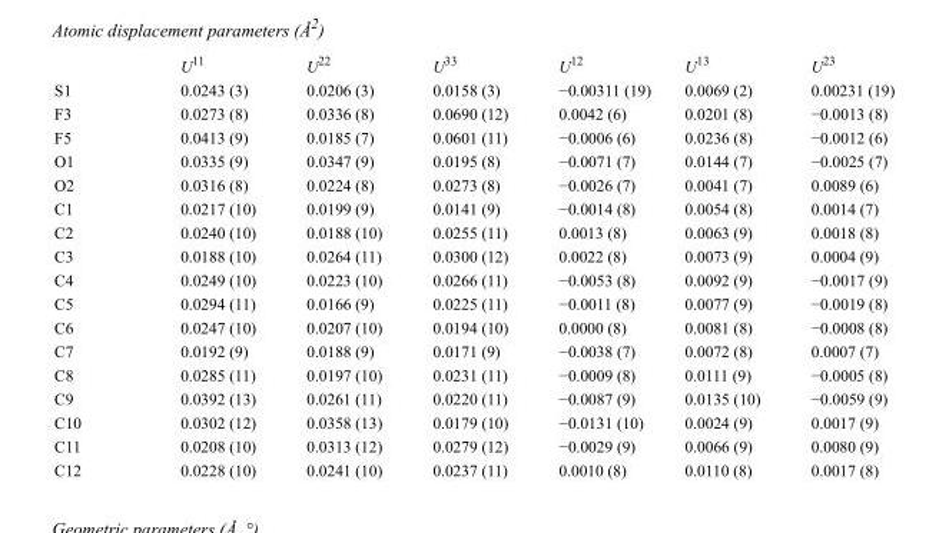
<table><thead><tr><td></td><td>U<sup>11</sup></td><td>U<sup>22</sup></td><td>U<sup>33</sup></td><td>U<sup>12</sup></td><td>U<sup>13</sup></td><td>U<sup>23</sup></td></tr></thead><tbody><tr><td>S1</td><td>0.0243 (3)</td><td>0.0206 (3)</td><td>0.0158 (3)</td><td>−0.00311 (19)</td><td>0.0069 (2)</td><td>0.00231 (19)</td></tr><tr><td>F3</td><td>0.0273 (8)</td><td>0.0336 (8)</td><td>0.0690 (12)</td><td>0.0042 (6)</td><td>0.0201 (8)</td><td>−0.0013 (8)</td></tr><tr><td>F5</td><td>0.0413 (9)</td><td>0.0185 (7)</td><td>0.0601 (11)</td><td>−0.0006 (6)</td><td>0.0236 (8)</td><td>−0.0012 (6)</td></tr><tr><td>O1</td><td>0.0335 (9)</td><td>0.0347 (9)</td><td>0.0195 (8)</td><td>−0.0071 (7)</td><td>0.0144 (7)</td><td>−0.0025 (7)</td></tr><tr><td>O2</td><td>0.0316 (8)</td><td>0.0224 (8)</td><td>0.0273 (8)</td><td>−0.0026 (7)</td><td>0.0041 (7)</td><td>0.0089 (6)</td></tr><tr><td>C1</td><td>0.0217 (10)</td><td>0.0199 (9)</td><td>0.0141 (9)</td><td>−0.0014 (8)</td><td>0.0054 (8)</td><td>0.0014 (7)</td></tr><tr><td>C2</td><td>0.0240 (10)</td><td>0.0188 (10)</td><td>0.0255 (11)</td><td>0.0013 (8)</td><td>0.0063 (9)</td><td>0.0018 (8)</td></tr><tr><td>C3</td><td>0.0188 (10)</td><td>0.0264 (11)</td><td>0.0300 (12)</td><td>0.0022 (8)</td><td>0.0073 (9)</td><td>0.0004 (9)</td></tr><tr><td>C4</td><td>0.0249 (10)</td><td>0.0223 (10)</td><td>0.0266 (11)</td><td>−0.0053 (8)</td><td>0.0092 (9)</td><td>−0.0017 (9)</td></tr><tr><td>C5</td><td>0.0294 (11)</td><td>0.0166 (9)</td><td>0.0225 (11)</td><td>−0.0011 (8)</td><td>0.0077 (9)</td><td>−0.0019 (8)</td></tr><tr><td>C6</td><td>0.0247 (10)</td><td>0.0207 (10)</td><td>0.0194 (10)</td><td>0.0000 (8)</td><td>0.0081 (8)</td><td>−0.0008 (8)</td></tr><tr><td>C7</td><td>0.0192 (9)</td><td>0.0188 (9)</td><td>0.0171 (9)</td><td>−0.0038 (7)</td><td>0.0072 (8)</td><td>0.0007 (7)</td></tr><tr><td>C8</td><td>0.0285 (11)</td><td>0.0197 (10)</td><td>0.0231 (11)</td><td>−0.0009 (8)</td><td>0.0111 (9)</td><td>−0.0005 (8)</td></tr><tr><td>C9</td><td>0.0392 (13)</td><td>0.0261 (11)</td><td>0.0220 (11)</td><td>−0.0087 (9)</td><td>0.0135 (10)</td><td>−0.0059 (9)</td></tr><tr><td>C10</td><td>0.0302 (12)</td><td>0.0358 (13)</td><td>0.0179 (10)</td><td>−0.0131 (10)</td><td>0.0024 (9)</td><td>0.0017 (9)</td></tr><tr><td>C11</td><td>0.0208 (10)</td><td>0.0313 (12)</td><td>0.0279 (12)</td><td>−0.0029 (9)</td><td>0.0066 (9)</td><td>0.0080 (9)</td></tr><tr><td>C12</td><td>0.0228 (10)</td><td>0.0241 (10)</td><td>0.0237 (11)</td><td>0.0010 (8)</td><td>0.0110 (8)</td><td>0.0017 (8)</td></tr></tbody></table>